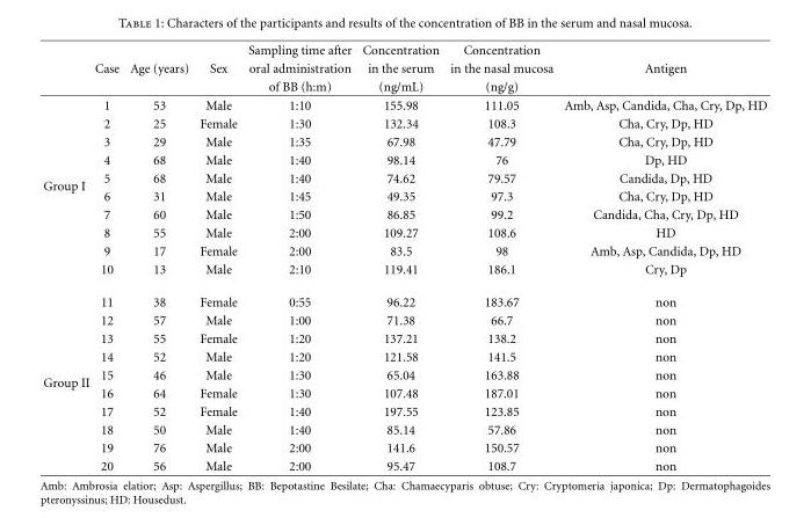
<table><thead><tr><td rowspan="3"></td><td rowspan="3">Case</td><td rowspan="3">Age (years)</td><td rowspan="3">Sex</td><td rowspan="3">Sampling time after oral administration of BB (h:m)</td><td rowspan="3">Concentration in the serum (ng/mL)</td><td rowspan="3">Concentration in the nasal mucosa (ng/g)</td><td rowspan="3">Antigen</td></tr><tr></tr><tr></tr></thead><tbody><tr><td rowspan="10">Group I</td><td>1</td><td>53</td><td>Male</td><td>1:10</td><td>155.98</td><td>111.05</td><td>Amb, Asp, Candida, Cha, Cry, Dp, HD</td></tr><tr><td>2</td><td>25</td><td>Female</td><td>1:30</td><td>132.34</td><td>108.3</td><td>Cha, Cry, Dp, HD</td></tr><tr><td>3</td><td>29</td><td>Male</td><td>1:35</td><td>67.98</td><td>47.79</td><td>Cha, Cry, Dp, HD</td></tr><tr><td>4</td><td>68</td><td>Male</td><td>1:40</td><td>98.14</td><td>76</td><td>Dp, HD</td></tr><tr><td>5</td><td>68</td><td>Male</td><td>1:40</td><td>74.62</td><td>79.57</td><td>Candida, Dp, HD</td></tr><tr><td>6</td><td>31</td><td>Male</td><td>1:45</td><td>49.35</td><td>97.3</td><td>Cha, Cry, Dp, HD</td></tr><tr><td>7</td><td>60</td><td>Male</td><td>1:50</td><td>86.85</td><td>99.2</td><td>Candida, Cha, Cry, Dp, HD</td></tr><tr><td>8</td><td>55</td><td>Male</td><td>2:00</td><td>109.27</td><td>108.6</td><td>HD</td></tr><tr><td>9</td><td>17</td><td>Female</td><td>2:00</td><td>83.5</td><td>98</td><td>Amb, Asp, Candida, Dp, HD</td></tr><tr><td>10</td><td>13</td><td>Male</td><td>2:10</td><td>119.41</td><td>186.1</td><td>Cry, Dp</td></tr><tr><td rowspan="10">Group II</td><td>11</td><td>38</td><td>Female</td><td>0:55</td><td>96.22</td><td>183.67</td><td>non</td></tr><tr><td>12</td><td>57</td><td>Male</td><td>1:00</td><td>71.38</td><td>66.7</td><td>non</td></tr><tr><td>13</td><td>55</td><td>Female</td><td>1:20</td><td>137.21</td><td>138.2</td><td>non</td></tr><tr><td>14</td><td>52</td><td>Male</td><td>1:20</td><td>121.58</td><td>141.5</td><td>non</td></tr><tr><td>15</td><td>46</td><td>Male</td><td>1:30</td><td>65.04</td><td>163.88</td><td>non</td></tr><tr><td>16</td><td>64</td><td>Female</td><td>1:30</td><td>107.48</td><td>187.01</td><td>non</td></tr><tr><td>17</td><td>52</td><td>Female</td><td>1:40</td><td>197.55</td><td>123.85</td><td>non</td></tr><tr><td>18</td><td>50</td><td>Male</td><td>1:40</td><td>85.14</td><td>57.86</td><td>non</td></tr><tr><td>19</td><td>76</td><td>Male</td><td>2:00</td><td>141.6</td><td>150.57</td><td>non</td></tr><tr><td>20</td><td>56</td><td>Male</td><td>2:00</td><td>95.47</td><td>108.7</td><td>non</td></tr></tbody></table>